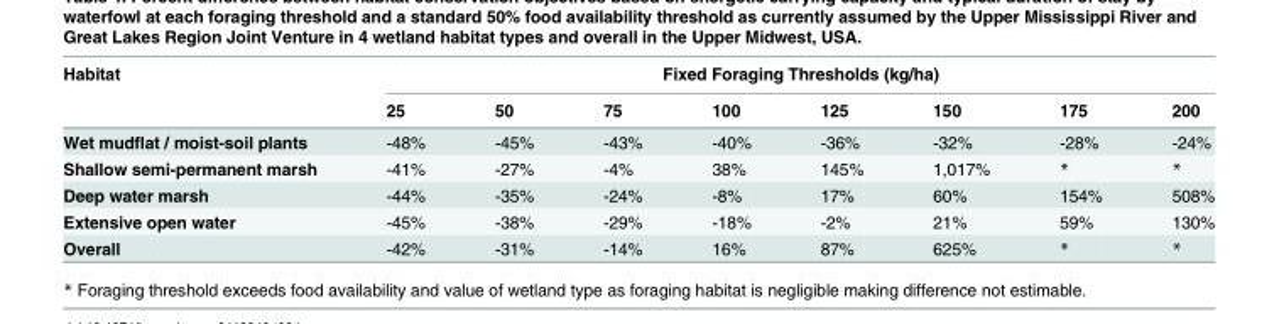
<table><thead><tr><td rowspan="2">Habitat</td><td colspan="8">Fixed Foraging Thresholds (kg/ha)</td></tr><tr><td>25</td><td>50</td><td>75</td><td>100</td><td>125</td><td>150</td><td>175</td><td>200</td></tr></thead><tbody><tr><td>Wet mudflat / moist-soil plants</td><td>-48%</td><td>-45%</td><td>-43%</td><td>-40%</td><td>-36%</td><td>-32%</td><td>-28%</td><td>-24%</td></tr><tr><td>Shallow semi-permanent marsh</td><td>-41%</td><td>-27%</td><td>-4%</td><td>38%</td><td>145%</td><td>1,017%</td><td>*</td><td>*</td></tr><tr><td>Deep water marsh</td><td>-44%</td><td>-35%</td><td>-24%</td><td>-8%</td><td>17%</td><td>60%</td><td>154%</td><td>508%</td></tr><tr><td>Extensive open water</td><td>-45%</td><td>-38%</td><td>-29%</td><td>-18%</td><td>-2%</td><td>21%</td><td>59%</td><td>130%</td></tr><tr><td>Overall</td><td>-42%</td><td>-31%</td><td>-14%</td><td>16%</td><td>87%</td><td>625%</td><td>*</td><td>*</td></tr></tbody></table>